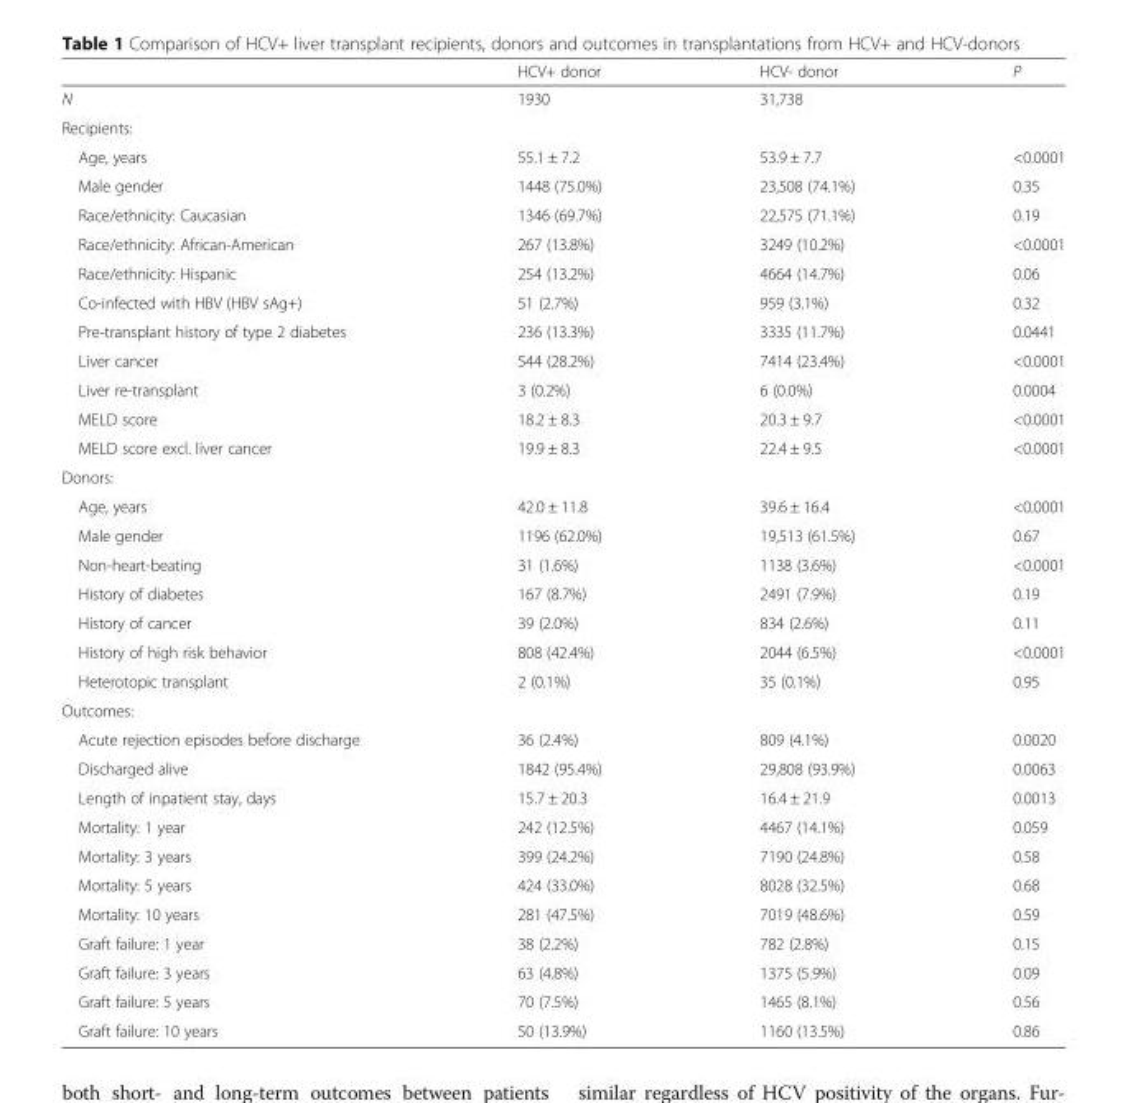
<table><thead><tr><td></td><td>HCV+ donor</td><td>HCV- donor</td><td>P</td></tr></thead><tbody><tr><td>N</td><td>1930</td><td>31,738</td><td></td></tr><tr><td colspan="4">Recipients:</td></tr><tr><td>Age, years</td><td>55.1 ± 7.2</td><td>53.9 ± 7.7</td><td>&lt;0.0001</td></tr><tr><td>Male gender</td><td>1448 (75.0%)</td><td>23,508 (74.1%)</td><td>0.35</td></tr><tr><td>Race/ethnicity: Caucasian</td><td>1346 (69.7%)</td><td>22,575 (71.1%)</td><td>0.19</td></tr><tr><td>Race/ethnicity: African-American</td><td>267 (13.8%)</td><td>3249 (10.2%)</td><td>&lt;0.0001</td></tr><tr><td>Race/ethnicity: Hispanic</td><td>254 (13.2%)</td><td>4664 (14.7%)</td><td>0.06</td></tr><tr><td>Co-infected with HBV (HBV sAg+)</td><td>51 (2.7%)</td><td>959 (3.1%)</td><td>0.32</td></tr><tr><td>Pre-transplant history of type 2 diabetes</td><td>236 (13.3%)</td><td>3335 (11.7%)</td><td>0.0441</td></tr><tr><td>Liver cancer</td><td>544 (28.2%)</td><td>7414 (23.4%)</td><td>&lt;0.0001</td></tr><tr><td>Liver re-transplant</td><td>3 (0.2%)</td><td>6 (0.0%)</td><td>0.0004</td></tr><tr><td>MELD score</td><td>18.2 ± 8.3</td><td>20.3 ± 9.7</td><td>&lt;0.0001</td></tr><tr><td>MELD score excl. liver cancer</td><td>19.9 ± 8.3</td><td>22.4 ± 9.5</td><td>&lt;0.0001</td></tr><tr><td colspan="4">Donors:</td></tr><tr><td>Age, years</td><td>42.0 ± 11.8</td><td>39.6 ± 16.4</td><td>&lt;0.0001</td></tr><tr><td>Male gender</td><td>1196 (62.0%)</td><td>19,513 (61.5%)</td><td>0.67</td></tr><tr><td>Non-heart-beating</td><td>31 (1.6%)</td><td>1138 (3.6%)</td><td>&lt;0.0001</td></tr><tr><td>History of diabetes</td><td>167 (8.7%)</td><td>2491 (7.9%)</td><td>0.19</td></tr><tr><td>History of cancer</td><td>39 (2.0%)</td><td>834 (2.6%)</td><td>0.11</td></tr><tr><td>History of high risk behavior</td><td>808 (42.4%)</td><td>2044 (6.5%)</td><td>&lt;0.0001</td></tr><tr><td>Heterotopic transplant</td><td>2 (0.1%)</td><td>35 (0.1%)</td><td>0.95</td></tr><tr><td colspan="4">Outcomes:</td></tr><tr><td>Acute rejection episodes before discharge</td><td>36 (2.4%)</td><td>809 (4.1%)</td><td>0.0020</td></tr><tr><td>Discharged alive</td><td>1842 (95.4%)</td><td>29,808 (93.9%)</td><td>0.0063</td></tr><tr><td>Length of inpatient stay, days</td><td>15.7 ± 20.3</td><td>16.4 ± 21.9</td><td>0.0013</td></tr><tr><td>Mortality: 1 year</td><td>242 (12.5%)</td><td>4467 (14.1%)</td><td>0.059</td></tr><tr><td>Mortality: 3 years</td><td>399 (24.2%)</td><td>7190 (24.8%)</td><td>0.58</td></tr><tr><td>Mortality: 5 years</td><td>424 (33.0%)</td><td>8028 (32.5%)</td><td>0.68</td></tr><tr><td>Mortality: 10 years</td><td>281 (47.5%)</td><td>7019 (48.6%)</td><td>0.59</td></tr><tr><td>Graft failure: 1 year</td><td>38 (2.2%)</td><td>782 (2.8%)</td><td>0.15</td></tr><tr><td>Graft failure: 3 years</td><td>63 (4.8%)</td><td>1375 (5.9%)</td><td>0.09</td></tr><tr><td>Graft failure: 5 years</td><td>70 (7.5%)</td><td>1465 (8.1%)</td><td>0.56</td></tr><tr><td>Graft failure: 10 years</td><td>50 (13.9%)</td><td>1160 (13.5%)</td><td>0.86</td></tr></tbody></table>